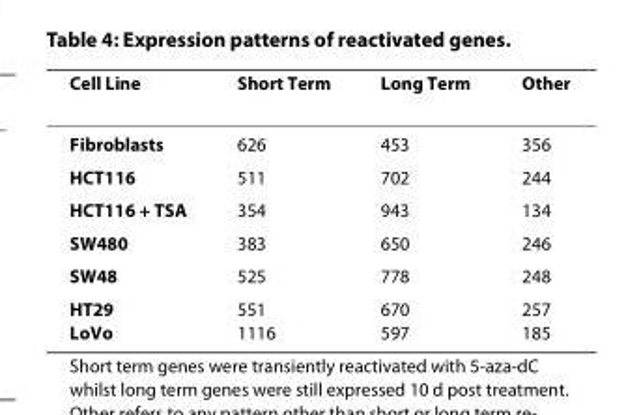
<table><thead><tr><td>Cell Line</td><td>Short Term</td><td>Long Term</td><td>Other</td></tr></thead><tbody><tr><td>Fibroblasts</td><td>626</td><td>453</td><td>356</td></tr><tr><td>HCT116</td><td>511</td><td>702</td><td>244</td></tr><tr><td>HCT116 + TSA</td><td>354</td><td>943</td><td>134</td></tr><tr><td>SW480</td><td>383</td><td>650</td><td>246</td></tr><tr><td>SW48</td><td>525</td><td>778</td><td>248</td></tr><tr><td>HT29 LoVo</td><td>551 1116</td><td>670 597</td><td>257 185</td></tr></tbody></table>